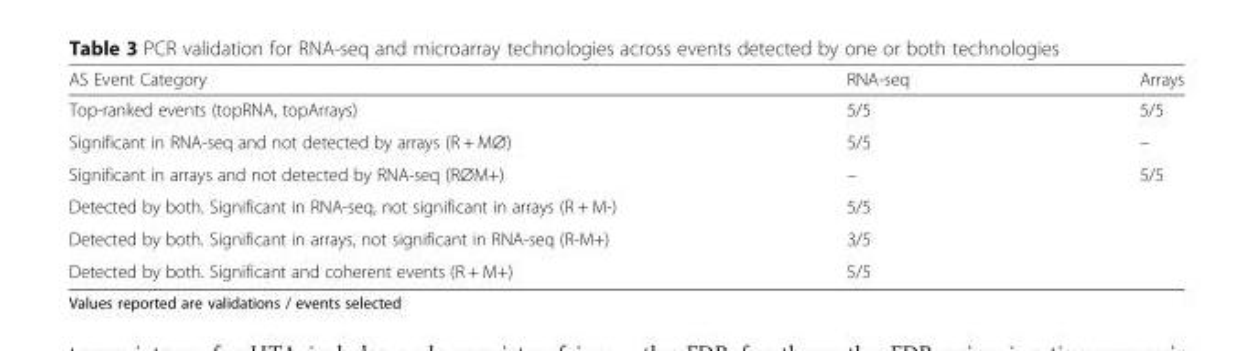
<table><thead><tr><td>AS Event Category</td><td>RNA-seq</td><td>Arrays</td></tr></thead><tbody><tr><td>Top-ranked events (topRNA, topArrays)</td><td>5/5</td><td>5/5</td></tr><tr><td>Significant in RNA-seq and not detected by arrays (R + M∅)</td><td>5/5</td><td>–</td></tr><tr><td>Significant in arrays and not detected by RNA-seq (R∅M+)</td><td>–</td><td>5/5</td></tr><tr><td>Detected by both. Significant in RNA-seq, not significant in arrays (R + M-)</td><td colspan="2">5/5</td></tr><tr><td>Detected by both. Significant in arrays, not significant in RNA-seq (R-M+)</td><td colspan="2">3/5</td></tr><tr><td>Detected by both. Significant and coherent events (R + M+)</td><td colspan="2">5/5</td></tr></tbody></table>